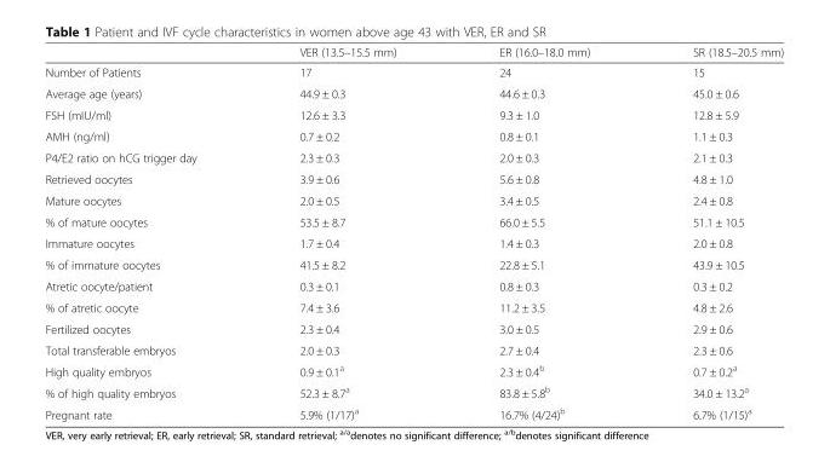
<table><thead><tr><td></td><td>VER (13.5–15.5 mm)</td><td>ER (16.0–18.0 mm)</td><td>SR (18.5–20.5 mm)</td></tr></thead><tbody><tr><td>Number of Patients</td><td>17</td><td>24</td><td>15</td></tr><tr><td>Average age (years)</td><td>44.9 ± 0.3</td><td>44.6 ± 0.3</td><td>45.0 ± 0.6</td></tr><tr><td>FSH (mIU/ml)</td><td>12.6 ± 3.3</td><td>9.3 ± 1.0</td><td>12.8 ± 5.9</td></tr><tr><td>AMH (ng/ml)</td><td>0.7 ± 0.2</td><td>0.8 ± 0.1</td><td>1.1 ± 0.3</td></tr><tr><td>P4/E2 ratio on hCG trigger day</td><td>2.3 ± 0.3</td><td>2.0 ± 0.3</td><td>2.1 ± 0.3</td></tr><tr><td>Retrieved oocytes</td><td>3.9 ± 0.6</td><td>5.6 ± 0.8</td><td>4.8 ± 1.0</td></tr><tr><td>Mature oocytes</td><td>2.0 ± 0.5</td><td>3.4 ± 0.5</td><td>2.4 ± 0.8</td></tr><tr><td>% of mature oocytes</td><td>53.5 ± 8.7</td><td>66.0 ± 5.5</td><td>51.1 ± 10.5</td></tr><tr><td>Immature oocytes</td><td>1.7 ± 0.4</td><td>1.4 ± 0.3</td><td>2.0 ± 0.8</td></tr><tr><td>% of immature oocytes</td><td>41.5 ± 8.2</td><td>22.8 ± 5.1</td><td>43.9 ± 10.5</td></tr><tr><td>Atretic oocyte/patient</td><td>0.3 ± 0.1</td><td>0.8 ± 0.3</td><td>0.3 ± 0.2</td></tr><tr><td>% of atretic oocyte</td><td>7.4 ± 3.6</td><td>11.2 ± 3.5</td><td>4.8 ± 2.6</td></tr><tr><td>Fertilized oocytes</td><td>2.3 ± 0.4</td><td>3.0 ± 0.5</td><td>2.9 ± 0.6</td></tr><tr><td>Total transferable embryos</td><td>2.0 ± 0.3</td><td>2.7 ± 0.4</td><td>2.3 ± 0.6</td></tr><tr><td>High quality embryos</td><td>0.9 ± 0.1<sup>a</sup></td><td>2.3 ± 0.4<sup>b</sup></td><td>0.7 ± 0.2<sup>a</sup></td></tr><tr><td>% of high quality embryos</td><td>52.3 ± 8.7<sup>a</sup></td><td>83.8 ± 5.8<sup>b</sup></td><td>34.0 ± 13.2<sup>a</sup></td></tr><tr><td>Pregnant rate</td><td>5.9% (1/17)<sup>a</sup></td><td>16.7% (4/24)<sup>b</sup></td><td>6.7% (1/15)<sup>a</sup></td></tr></tbody></table>